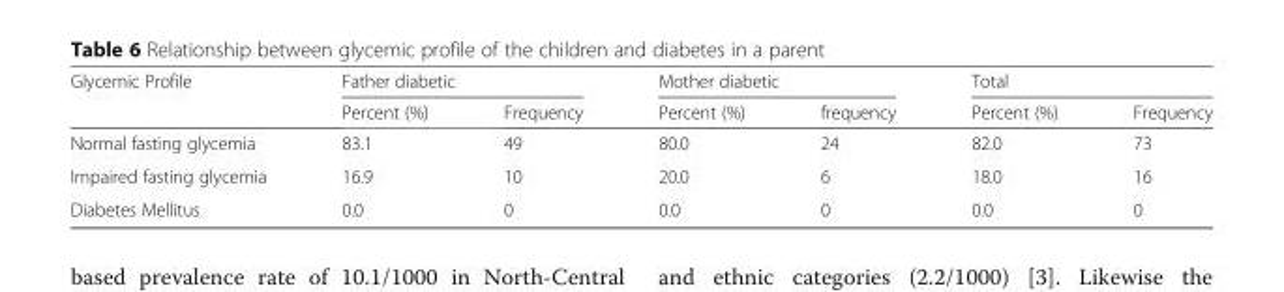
<table><thead><tr><td rowspan="2">Glycemic Profile</td><td colspan="2">Father diabetic</td><td colspan="2">Mother diabetic</td><td colspan="2">Total</td></tr><tr><td>Percent (%)</td><td>Frequency</td><td>Percent (%)</td><td>frequency</td><td>Percent (%)</td><td>Frequency</td></tr></thead><tbody><tr><td>Normal fasting glycemia</td><td>83.1</td><td>49</td><td>80.0</td><td>24</td><td>82.0</td><td>73</td></tr><tr><td>Impaired fasting glycemia</td><td>16.9</td><td>10</td><td>20.0</td><td>6</td><td>18.0</td><td>16</td></tr><tr><td>Diabetes Mellitus</td><td>0.0</td><td>0</td><td>0.0</td><td>0</td><td>0.0</td><td>0</td></tr></tbody></table>